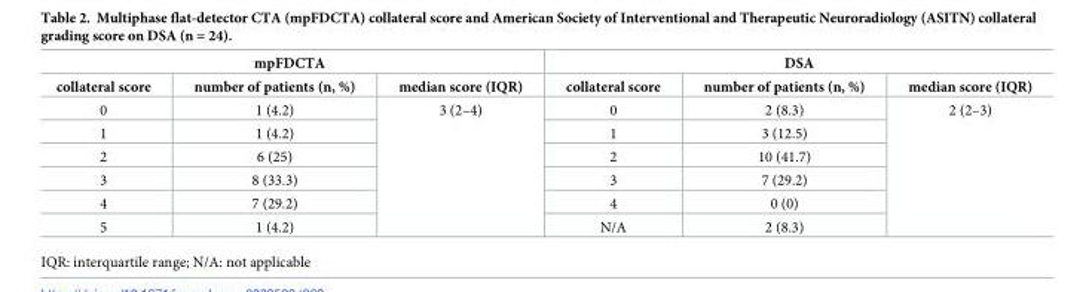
<table><thead><tr><td colspan="3">mpFDCTA</td><td colspan="3">DSA</td></tr><tr><td>collateral score</td><td>number of patients (n, %)</td><td>median score (IQR)</td><td>collateral score</td><td>number of patients (n, %)</td><td>median score (IQR)</td></tr></thead><tbody><tr><td>0</td><td>1 (4.2)</td><td rowspan="6">3 (2–4)</td><td>0</td><td>2 (8.3)</td><td rowspan="6">2 (2–3)</td></tr><tr><td>1</td><td>1 (4.2)</td><td>1</td><td>3 (12.5)</td></tr><tr><td>2</td><td>6 (25)</td><td>2</td><td>10 (41.7)</td></tr><tr><td>3</td><td>8 (33.3)</td><td>3</td><td>7 (29.2)</td></tr><tr><td>4</td><td>7 (29.2)</td><td>4</td><td>0 (0)</td></tr><tr><td>5</td><td>1 (4.2)</td><td>N/A</td><td>2 (8.3)</td></tr></tbody></table>